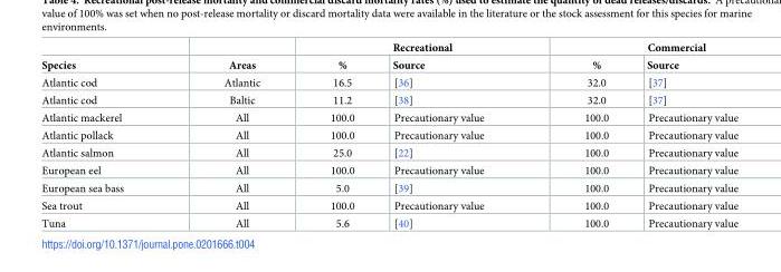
<table><thead><tr><td rowspan="2">Species</td><td rowspan="2">Areas</td><td colspan="2">Recreational</td><td colspan="2">Commercial</td></tr><tr><td>%</td><td>Source</td><td>%</td><td>Source</td></tr></thead><tbody><tr><td>Atlantic cod</td><td>Atlantic</td><td>16.5</td><td>[36]</td><td>32.0</td><td>[37]</td></tr><tr><td>Atlantic cod</td><td>Baltic</td><td>11.2</td><td>[38]</td><td>32.0</td><td>[37]</td></tr><tr><td>Atlantic mackerel</td><td>All</td><td>100.0</td><td>Precautionary value</td><td>100.0</td><td>Precautionary value</td></tr><tr><td>Atlantic pollack</td><td>All</td><td>100.0</td><td>Precautionary value</td><td>100.0</td><td>Precautionary value</td></tr><tr><td>Atlantic salmon</td><td>All</td><td>25.0</td><td>[22]</td><td>100.0</td><td>Precautionary value</td></tr><tr><td>European eel</td><td>All</td><td>100.0</td><td>Precautionary value</td><td>100.0</td><td>Precautionary value</td></tr><tr><td>European sea bass</td><td>All</td><td>5.0</td><td>[39]</td><td>100.0</td><td>Precautionary value</td></tr><tr><td>Sea trout</td><td>All</td><td>100.0</td><td>Precautionary value</td><td>100.0</td><td>Precautionary value</td></tr><tr><td>Tuna</td><td>All</td><td>5.6</td><td>[40]</td><td>100.0</td><td>Precautionary value</td></tr></tbody></table>